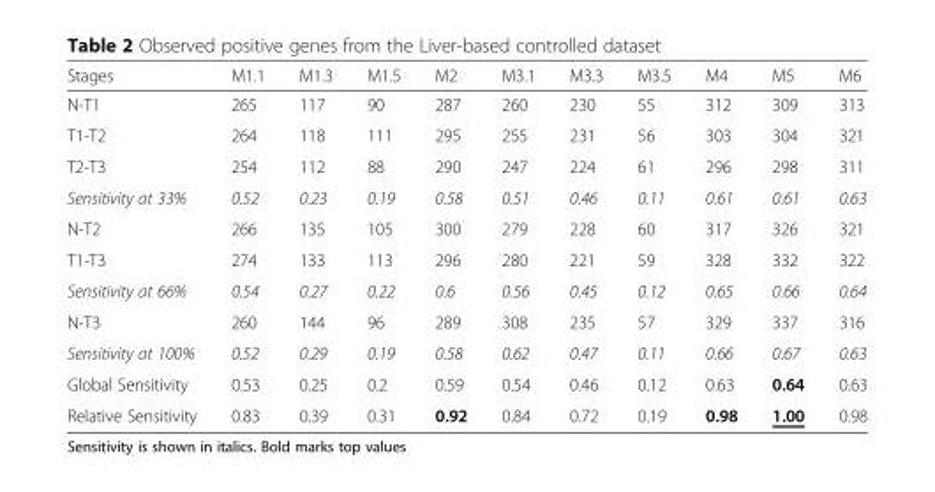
<table><thead><tr><td>Stages</td><td>M1.1</td><td>M1.3</td><td>M1.5</td><td>M2</td><td>M3.1</td><td>M3.3</td><td>M3.5</td><td>M4</td><td>M5</td><td>M6</td></tr></thead><tbody><tr><td>N-T1</td><td>265</td><td>117</td><td>90</td><td>287</td><td>260</td><td>230</td><td>55</td><td>312</td><td>309</td><td>313</td></tr><tr><td>T1-T2</td><td>264</td><td>118</td><td>111</td><td>295</td><td>255</td><td>231</td><td>56</td><td>303</td><td>304</td><td>321</td></tr><tr><td>T2-T3</td><td>254</td><td>112</td><td>88</td><td>290</td><td>247</td><td>224</td><td>61</td><td>296</td><td>298</td><td>311</td></tr><tr><td>Sensitivity at 33%</td><td>0.52</td><td>0.23</td><td>0.19</td><td>0.58</td><td>0.51</td><td>0.46</td><td>0.11</td><td>0.61</td><td>0.61</td><td>0.63</td></tr><tr><td>N-T2</td><td>266</td><td>135</td><td>105</td><td>300</td><td>279</td><td>228</td><td>60</td><td>317</td><td>326</td><td>321</td></tr><tr><td>T1-T3</td><td>274</td><td>133</td><td>113</td><td>296</td><td>280</td><td>221</td><td>59</td><td>328</td><td>332</td><td>322</td></tr><tr><td>Sensitivity at 66%</td><td>0.54</td><td>0.27</td><td>0.22</td><td>0.6</td><td>0.56</td><td>0.45</td><td>0.12</td><td>0.65</td><td>0.66</td><td>0.64</td></tr><tr><td>N-T3</td><td>260</td><td>144</td><td>96</td><td>289</td><td>308</td><td>235</td><td>57</td><td>329</td><td>337</td><td>316</td></tr><tr><td>Sensitivity at 100%</td><td>0.52</td><td>0.29</td><td>0.19</td><td>0.58</td><td>0.62</td><td>0.47</td><td>0.11</td><td>0.66</td><td>0.67</td><td>0.63</td></tr><tr><td>Global Sensitivity</td><td>0.53</td><td>0.25</td><td>0.2</td><td>0.59</td><td>0.54</td><td>0.46</td><td>0.12</td><td>0.63</td><td>0.64</td><td>0.63</td></tr><tr><td>Relative Sensitivity</td><td>0.83</td><td>0.39</td><td>0.31</td><td>0.92</td><td>0.84</td><td>0.72</td><td>0.19</td><td>0.98</td><td>1.00</td><td>0.98</td></tr></tbody></table>